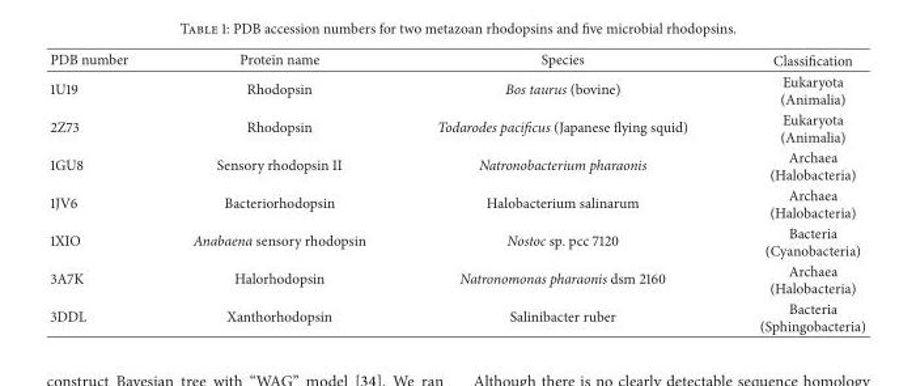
<table><thead><tr><td>PDB number</td><td>Protein name</td><td>Species</td><td>Classification</td></tr></thead><tbody><tr><td>1U19</td><td>Rhodopsin</td><td>Bos taurus (bovine)</td><td>Eukaryota (Animalia)</td></tr><tr><td>2Z73</td><td>Rhodopsin</td><td>Todarodes pacificus (Japanese flying squid)</td><td>Eukaryota (Animalia)</td></tr><tr><td>1GU8</td><td>Sensory rhodopsin II</td><td>Natronobacterium pharaonis</td><td>Archaea (Halobacteria)</td></tr><tr><td>1JV6</td><td>Bacteriorhodopsin</td><td>Halobacterium salinarum</td><td>Archaea (Halobacteria)</td></tr><tr><td>1XIO</td><td>Anabaena sensory rhodopsin</td><td>Nostoc sp. pcc 7120</td><td>Bacteria (Cyanobacteria)</td></tr><tr><td>3A7K</td><td>Halorhodopsin</td><td>Natronomonas pharaonis dsm 2160</td><td>Archaea (Halobacteria)</td></tr><tr><td>3DDL</td><td>Xanthorhodopsin</td><td>Salinibacter ruber</td><td>Bacteria (Sphingobacteria)</td></tr></tbody></table>